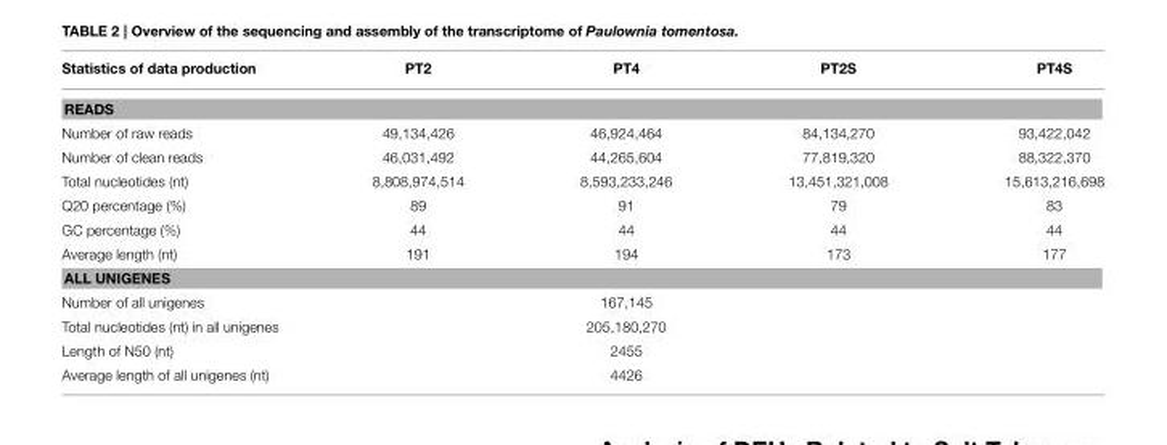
<table><thead><tr><td>Statistics of data production</td><td>PT2</td><td>PT4</td><td>PT2S</td><td>PT4S</td></tr></thead><tbody><tr><td colspan="5">READS</td></tr><tr><td>Number of raw reads</td><td>49,134,426</td><td>46,924,464</td><td>84,134,270</td><td>93,422,042</td></tr><tr><td>Number of clean reads</td><td>46,031,492</td><td>44,265,604</td><td>77,819,320</td><td>88,322,370</td></tr><tr><td>Total nucleotides (nt)</td><td>8,808,974,514</td><td>8,593,233,246</td><td>13,451,321,008</td><td>15,613,216,698</td></tr><tr><td>Q20 percentage (%)</td><td>89</td><td>91</td><td>79</td><td>83</td></tr><tr><td>GC percentage (%)</td><td>44</td><td>44</td><td>44</td><td>44</td></tr><tr><td>Average length (nt)</td><td>191</td><td>194</td><td>173</td><td>177</td></tr><tr><td colspan="5">ALL UNIGENES</td></tr><tr><td>Number of all unigenes</td><td></td><td>167,145</td><td colspan="2"></td></tr><tr><td>Total nucleotides (nt) in all unigenes</td><td></td><td>205,180,270</td><td colspan="2"></td></tr><tr><td>Length of N50 (nt)</td><td></td><td>2455</td><td colspan="2"></td></tr><tr><td>Average length of all unigenes (nt)</td><td></td><td>4426</td><td colspan="2"></td></tr></tbody></table>